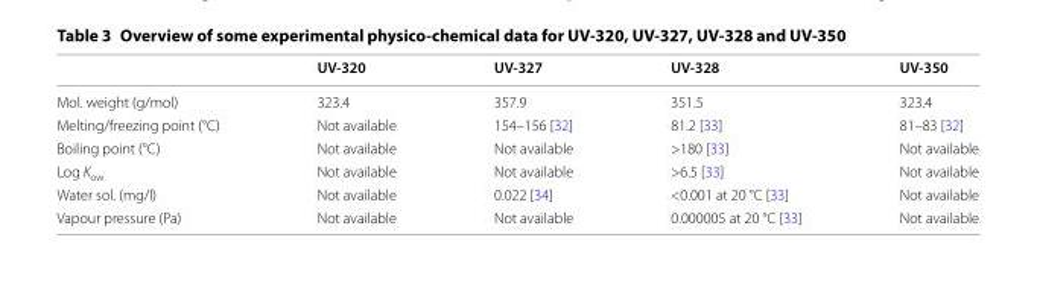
<table><thead><tr><td></td><td>UV-320</td><td>UV-327</td><td>UV-328</td><td>UV-350</td></tr></thead><tbody><tr><td>Mol. weight (g/mol)</td><td>323.4</td><td>357.9</td><td>351.5</td><td>323.4</td></tr><tr><td>Melting/freezing point (°C)</td><td>Not available</td><td>154–156 [32]</td><td>81.2 [33]</td><td>81–83 [32]</td></tr><tr><td>Boiling point (°C)</td><td>Not available</td><td>Not available</td><td>&gt;180 [33]</td><td>Not available</td></tr><tr><td>Log K<sub>ow</sub></td><td>Not available</td><td>Not available</td><td>&gt;6.5 [33]</td><td>Not available</td></tr><tr><td>Water sol. (mg/l)</td><td>Not available</td><td>0.022 [34]</td><td>&lt;0.001 at 20 °C [33]</td><td>Not available</td></tr><tr><td>Vapour pressure (Pa)</td><td>Not available</td><td>Not available</td><td>0.000005 at 20 °C [33]</td><td>Not available</td></tr></tbody></table>